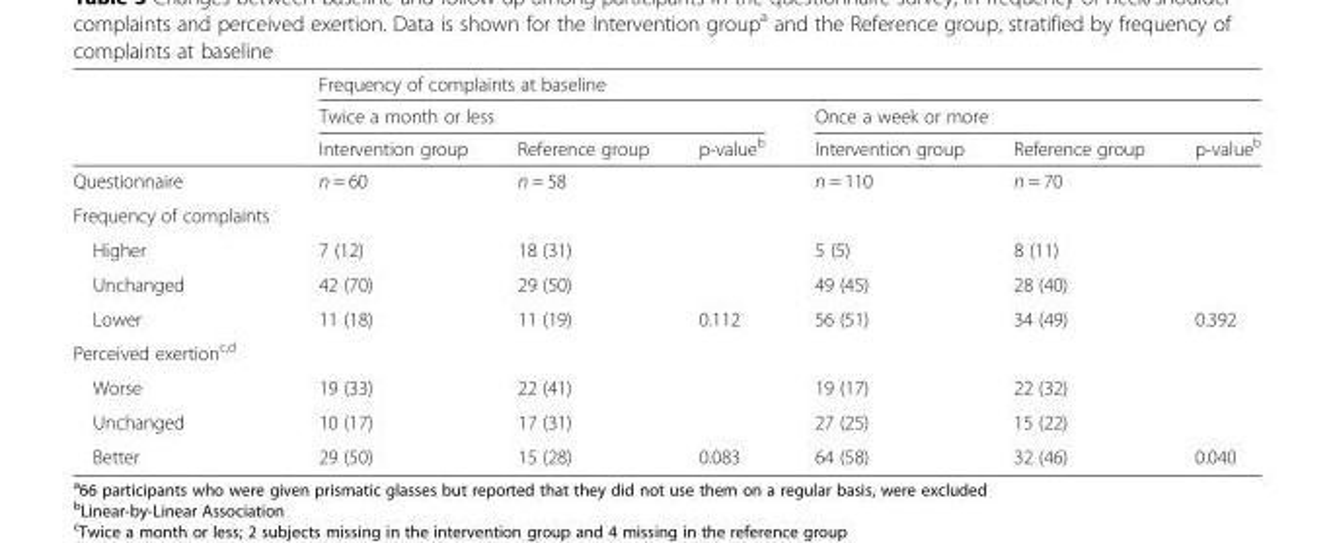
<table><thead><tr><td rowspan="3"></td><td colspan="6">Frequency of complaints at baseline</td></tr><tr><td colspan="3">Twice a month or less</td><td colspan="3">Once a week or more</td></tr><tr><td>Intervention group</td><td>Reference group</td><td>p-value<sup>b</sup></td><td>Intervention group</td><td>Reference group</td><td>p-value<sup>b</sup></td></tr></thead><tbody><tr><td>Questionnaire</td><td>n = 60</td><td>n = 58</td><td></td><td>n = 110</td><td>n = 70</td><td></td></tr><tr><td colspan="7">Frequency of complaints</td></tr><tr><td>Higher</td><td>7 (12)</td><td>18 (31)</td><td></td><td>5 (5)</td><td>8 (11)</td><td></td></tr><tr><td>Unchanged</td><td>42 (70)</td><td>29 (50)</td><td></td><td>49 (45)</td><td>28 (40)</td><td></td></tr><tr><td>Lower</td><td>11 (18)</td><td>11 (19)</td><td>0.112</td><td>56 (51)</td><td>34 (49)</td><td>0.392</td></tr><tr><td colspan="7">Perceived exertion<sup>c,d</sup></td></tr><tr><td>Worse</td><td>19 (33)</td><td>22 (41)</td><td></td><td>19 (17)</td><td>22 (32)</td><td></td></tr><tr><td>Unchanged</td><td>10 (17)</td><td>17 (31)</td><td></td><td>27 (25)</td><td>15 (22)</td><td></td></tr><tr><td>Better</td><td>29 (50)</td><td>15 (28)</td><td>0.083</td><td>64 (58)</td><td>32 (46)</td><td>0.040</td></tr></tbody></table>